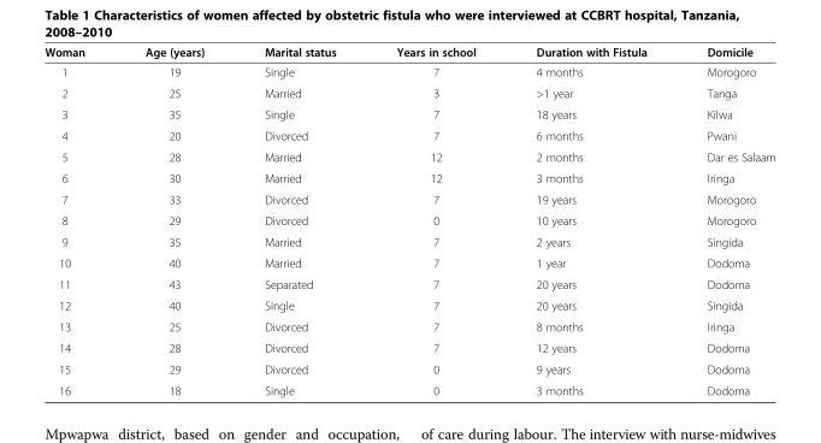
<table><thead><tr><td>Woman</td><td>Age (years)</td><td>Marital status</td><td>Years in school</td><td>Duration with Fistula</td><td>Domicile</td></tr></thead><tbody><tr><td>1</td><td>19</td><td>Single</td><td>7</td><td>4 months</td><td>Morogoro</td></tr><tr><td>2</td><td>25</td><td>Married</td><td>3</td><td>&gt;1 year</td><td>Tanga</td></tr><tr><td>3</td><td>35</td><td>Single</td><td>7</td><td>18 years</td><td>Kilwa</td></tr><tr><td>4</td><td>20</td><td>Divorced</td><td>7</td><td>6 months</td><td>Pwani</td></tr><tr><td>5</td><td>28</td><td>Married</td><td>12</td><td>2 months</td><td>Dar es Salaam</td></tr><tr><td>6</td><td>30</td><td>Married</td><td>12</td><td>3 months</td><td>Iringa</td></tr><tr><td>7</td><td>33</td><td>Divorced</td><td>7</td><td>19 years</td><td>Morogoro</td></tr><tr><td>8</td><td>29</td><td>Divorced</td><td>0</td><td>10 years</td><td>Morogoro</td></tr><tr><td>9</td><td>35</td><td>Married</td><td>7</td><td>2 years</td><td>Singida</td></tr><tr><td>10</td><td>40</td><td>Married</td><td>7</td><td>1 year</td><td>Dodoma</td></tr><tr><td>11</td><td>43</td><td>Separated</td><td>7</td><td>20 years</td><td>Dodoma</td></tr><tr><td>12</td><td>40</td><td>Single</td><td>7</td><td>20 years</td><td>Singida</td></tr><tr><td>13</td><td>25</td><td>Divorced</td><td>7</td><td>8 months</td><td>Iringa</td></tr><tr><td>14</td><td>28</td><td>Divorced</td><td>7</td><td>12 years</td><td>Dodoma</td></tr><tr><td>15</td><td>29</td><td>Divorced</td><td>0</td><td>9 years</td><td>Dodoma</td></tr><tr><td>16</td><td>18</td><td>Single</td><td>0</td><td>3 months</td><td>Dodoma</td></tr></tbody></table>